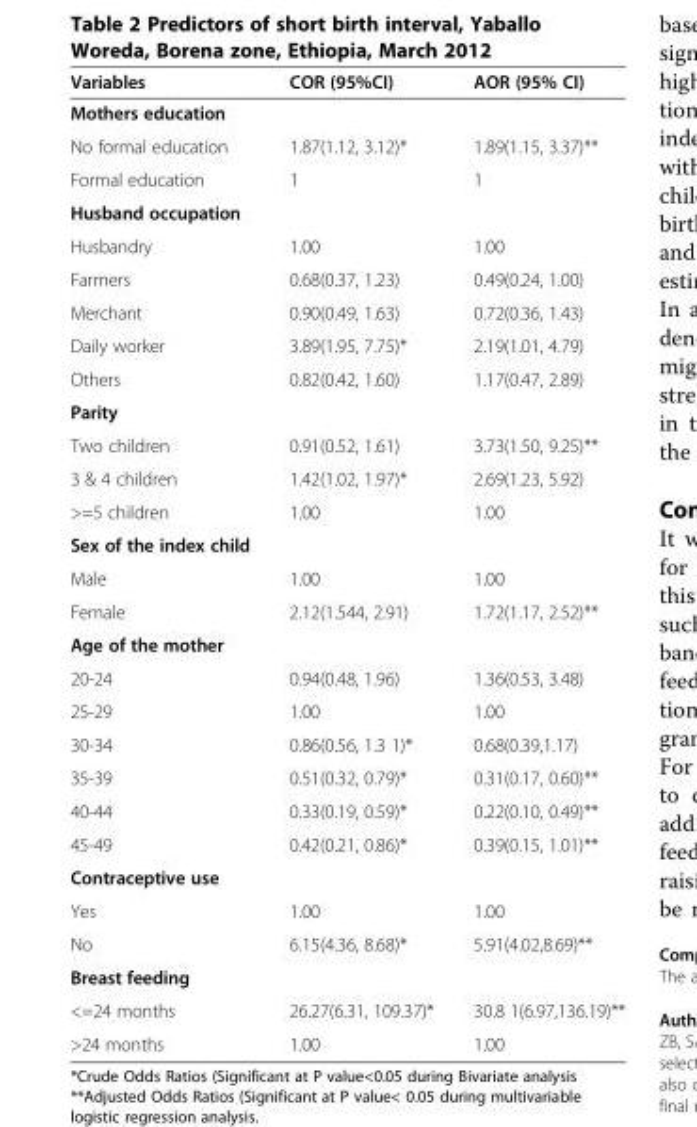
<table><thead><tr><td>Variables</td><td>COR (95%CI)</td><td>AOR (95% CI)</td></tr></thead><tbody><tr><td colspan="3">Mothers education</td></tr><tr><td>No formal education</td><td>1.87(1.12, 3.12)*</td><td>1.89(1.15, 3.37)**</td></tr><tr><td>Formal education</td><td>1</td><td>1</td></tr><tr><td colspan="3">Husband occupation</td></tr><tr><td>Husbandry</td><td>1.00</td><td>1.00</td></tr><tr><td>Farmers</td><td>0.68(0.37, 1.23)</td><td>0.49(0.24, 1.00)</td></tr><tr><td>Merchant</td><td>0.90(0.49, 1.63)</td><td>0.72(0.36, 1.43)</td></tr><tr><td>Daily worker</td><td>3.89(1.95, 7.75)*</td><td>2.19(1.01, 4.79)</td></tr><tr><td>Others</td><td>0.82(0.42, 1.60)</td><td>1.17(0.47, 2.89)</td></tr><tr><td colspan="3">Parity</td></tr><tr><td>Two children</td><td>0.91(0.52, 1.61)</td><td>3.73(1.50, 9.25)**</td></tr><tr><td>3 &amp; 4 children</td><td>1.42(1.02, 1.97)*</td><td>2.69(1.23, 5.92)</td></tr><tr><td>&gt;=5 children</td><td>1.00</td><td>1.00</td></tr><tr><td colspan="3">Sex of the index child</td></tr><tr><td>Male</td><td>1.00</td><td>1.00</td></tr><tr><td>Female</td><td>2.12(1.544, 2.91)</td><td>1.72(1.17, 2.52)**</td></tr><tr><td colspan="3">Age of the mother</td></tr><tr><td>20-24</td><td>0.94(0.48, 1.96)</td><td>1.36(0.53, 3.48)</td></tr><tr><td>25-29</td><td>1.00</td><td>1.00</td></tr><tr><td>30-34</td><td>0.86(0.56, 1.3 1)*</td><td>0.68(0.39,1.17)</td></tr><tr><td>35-39</td><td>0.51(0.32, 0.79)*</td><td>0.31(0.17, 0.60)**</td></tr><tr><td>40-44</td><td>0.33(0.19, 0.59)*</td><td>0.22(0.10, 0.49)**</td></tr><tr><td>45-49</td><td>0.42(0.21, 0.86)*</td><td>0.39(0.15, 1.01)**</td></tr><tr><td colspan="3">Contraceptive use</td></tr><tr><td>Yes</td><td>1.00</td><td>1.00</td></tr><tr><td>No</td><td>6.15(4.36, 8.68)*</td><td>5.91(4.02,8.69)**</td></tr><tr><td colspan="3">Breast feeding</td></tr><tr><td>&lt;=24 months</td><td>26.27(6.31, 109.37)*</td><td>30.8 1(6.97,136.19)**</td></tr><tr><td>&gt;24 months</td><td>1.00</td><td>1.00</td></tr></tbody></table>